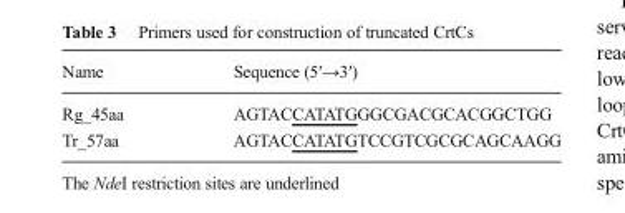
<table><thead><tr><td>Name</td><td>Sequence (5′→3′)</td></tr></thead><tbody><tr><td>Rg_45aa</td><td>AGTACCATATGGGCGACGCACGGCTGG</td></tr><tr><td>Tr_57aa</td><td>AGTACCATATGTCCGTCGCGCAGCAAGG</td></tr></tbody></table>